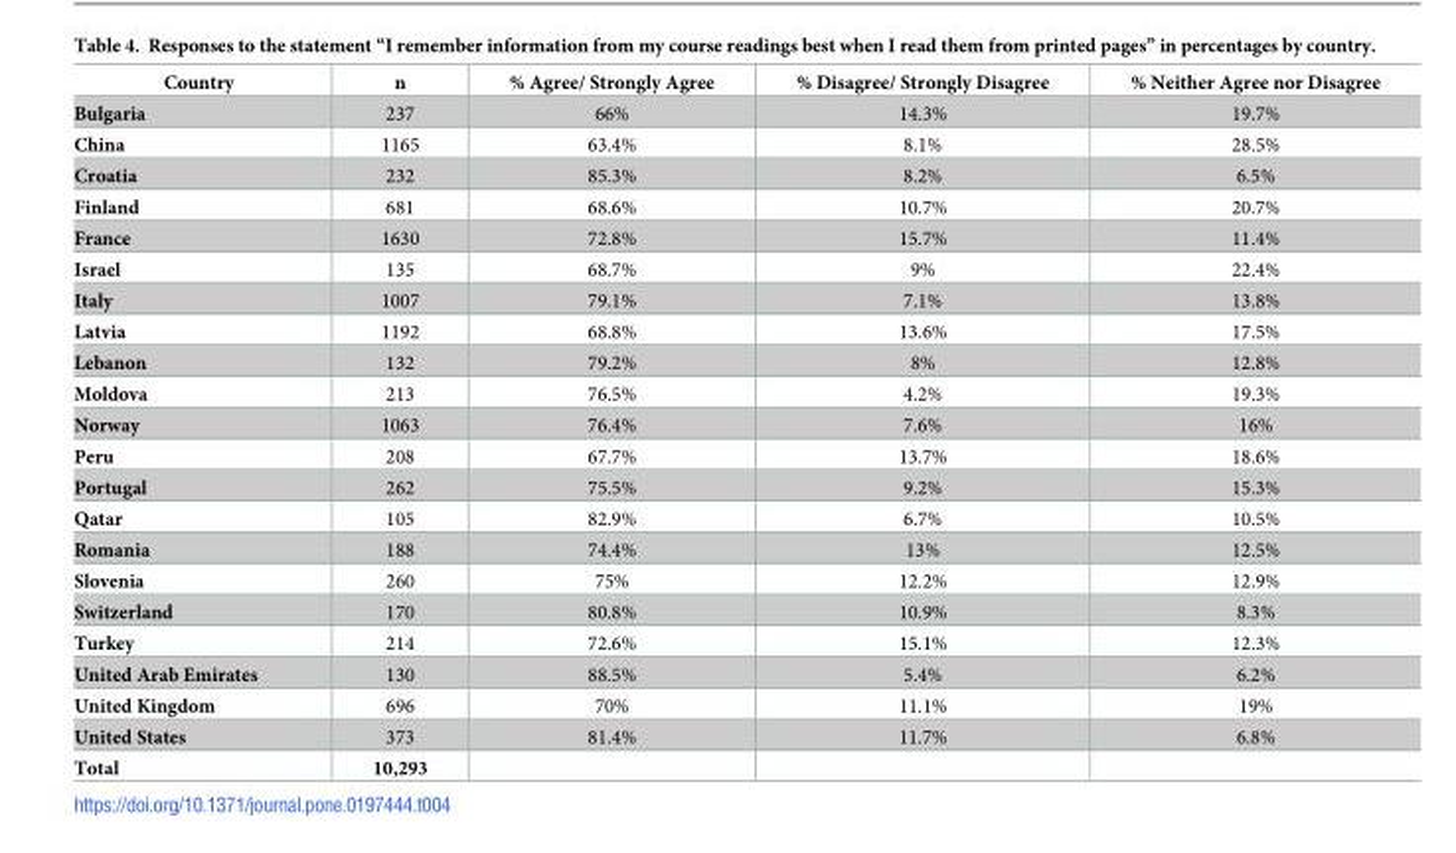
<table><thead><tr><td>Country</td><td>n</td><td>% Agree/ Strongly Agree</td><td>% Disagree/ Strongly Disagree</td><td>% Neither Agree nor Disagree</td></tr></thead><tbody><tr><td>Bulgaria</td><td>237</td><td>66%</td><td>14.3%</td><td>19.7%</td></tr><tr><td>China</td><td>1165</td><td>63.4%</td><td>8.1%</td><td>28.5%</td></tr><tr><td>Croatia</td><td>232</td><td>85.3%</td><td>8.2%</td><td>6.5%</td></tr><tr><td>Finland</td><td>681</td><td>68.6%</td><td>10.7%</td><td>20.7%</td></tr><tr><td>France</td><td>1630</td><td>72.8%</td><td>15.7%</td><td>11.4%</td></tr><tr><td>Israel</td><td>135</td><td>68.7%</td><td>9%</td><td>22.4%</td></tr><tr><td>Italy</td><td>1007</td><td>79.1%</td><td>7.1%</td><td>13.8%</td></tr><tr><td>Latvia</td><td>1192</td><td>68.8%</td><td>13.6%</td><td>17.5%</td></tr><tr><td>Lebanon</td><td>132</td><td>79.2%</td><td>8%</td><td>12.8%</td></tr><tr><td>Moldova</td><td>213</td><td>76.5%</td><td>4.2%</td><td>19.3%</td></tr><tr><td>Norway</td><td>1063</td><td>76.4%</td><td>7.6%</td><td>16%</td></tr><tr><td>Peru</td><td>208</td><td>67.7%</td><td>13.7%</td><td>18.6%</td></tr><tr><td>Portugal</td><td>262</td><td>75.5%</td><td>9.2%</td><td>15.3%</td></tr><tr><td>Qatar</td><td>105</td><td>82.9%</td><td>6.7%</td><td>10.5%</td></tr><tr><td>Romania</td><td>188</td><td>74.4%</td><td>13%</td><td>12.5%</td></tr><tr><td>Slovenia</td><td>260</td><td>75%</td><td>12.2%</td><td>12.9%</td></tr><tr><td>Switzerland</td><td>170</td><td>80.8%</td><td>10.9%</td><td>8.3%</td></tr><tr><td>Turkey</td><td>214</td><td>72.6%</td><td>15.1%</td><td>12.3%</td></tr><tr><td>United Arab Emirates</td><td>130</td><td>88.5%</td><td>5.4%</td><td>6.2%</td></tr><tr><td>United Kingdom</td><td>696</td><td>70%</td><td>11.1%</td><td>19%</td></tr><tr><td>United States</td><td>373</td><td>81.4%</td><td>11.7%</td><td>6.8%</td></tr><tr><td>Total</td><td>10,293</td><td></td><td></td><td></td></tr></tbody></table>